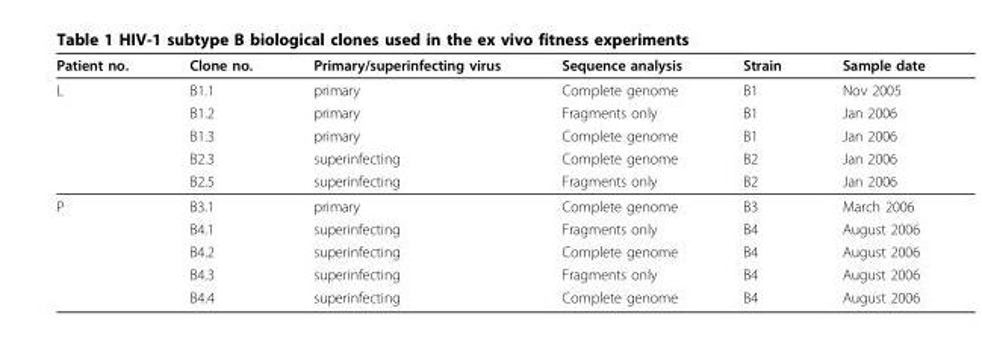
<table><thead><tr><td>Patient no.</td><td>Clone no.</td><td>Primary/superinfecting virus</td><td>Sequence analysis</td><td>Strain</td><td>Sample date</td></tr></thead><tbody><tr><td rowspan="5">L</td><td>B1.1</td><td>primary</td><td>Complete genome</td><td>B1</td><td>Nov 2005</td></tr><tr><td>B1.2</td><td>primary</td><td>Fragments only</td><td>B1</td><td>Jan 2006</td></tr><tr><td>B1.3</td><td>primary</td><td>Complete genome</td><td>B1</td><td>Jan 2006</td></tr><tr><td>B2.3</td><td>superinfecting</td><td>Complete genome</td><td>B2</td><td>Jan 2006</td></tr><tr><td>B2.5</td><td>superinfecting</td><td>Fragments only</td><td>B2</td><td>Jan 2006</td></tr><tr><td rowspan="5">P</td><td>B3.1</td><td>primary</td><td>Complete genome</td><td>B3</td><td>March 2006</td></tr><tr><td>B4.1</td><td>superinfecting</td><td>Fragments only</td><td>B4</td><td>August 2006</td></tr><tr><td>B4.2</td><td>superinfecting</td><td>Complete genome</td><td>B4</td><td>August 2006</td></tr><tr><td>B4.3</td><td>superinfecting</td><td>Fragments only</td><td>B4</td><td>August 2006</td></tr><tr><td>B4.4</td><td>superinfecting</td><td>Complete genome</td><td>B4</td><td>August 2006</td></tr></tbody></table>